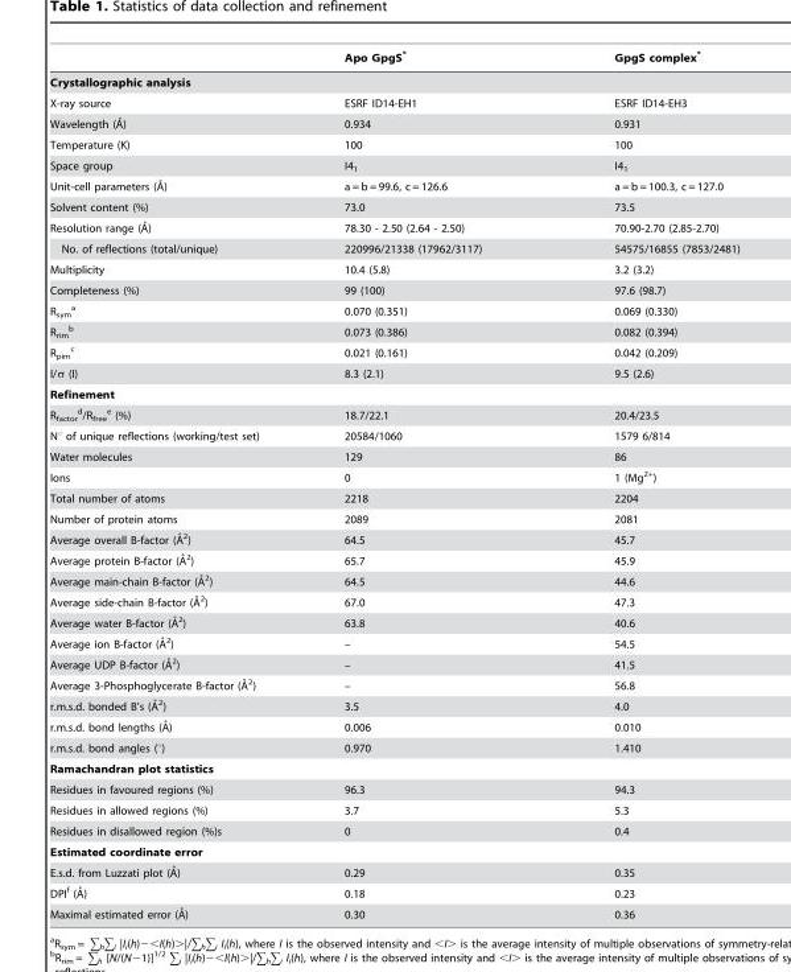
<table><thead><tr><td></td><td>Apo GpgS*</td><td>GpgS complex*</td></tr></thead><tbody><tr><td colspan="3">Crystallographic analysis</td></tr><tr><td>X-ray source</td><td>ESRF ID14-EH1</td><td>ESRF ID14-EH3</td></tr><tr><td>Wavelength (A˚)</td><td>0.934</td><td>0.931</td></tr><tr><td>Temperature (K)</td><td>100</td><td>100</td></tr><tr><td>Space group</td><td>I4<sub>1</sub></td><td>I4<sub>1</sub></td></tr><tr><td>Unit-cell parameters (A˚)</td><td>a = b = 99.6, c = 126.6</td><td>a = b = 100.3, c = 127.0</td></tr><tr><td>Solvent content (%)</td><td>73.0</td><td>73.5</td></tr><tr><td>Resolution range (A˚)</td><td>78.30 - 2.50 (2.64 - 2.50)</td><td>70.90-2.70 (2.85-2.70)</td></tr><tr><td>No. of reflections (total/unique)</td><td>220996/21338 (17962/3117)</td><td>54575/16855 (7853/2481)</td></tr><tr><td>Multiplicity</td><td>10.4 (5.8)</td><td>3.2 (3.2)</td></tr><tr><td>Completeness (%)</td><td>99 (100)</td><td>97.6 (98.7)</td></tr><tr><td>R<sub>sym</sub> a</td><td>0.070 (0.351)</td><td>0.069 (0.330)</td></tr><tr><td>R<sub>rim</sub> b</td><td>0.073 (0.386)</td><td>0.082 (0.394)</td></tr><tr><td>R<sub>pim</sub> c</td><td>0.021 (0.161)</td><td>0.042 (0.209)</td></tr><tr><td>I/σ (I)</td><td>8.3 (2.1)</td><td>9.5 (2.6)</td></tr><tr><td colspan="3">Refinement</td></tr><tr><td>R<sub>factor</sub> d/R<sub>free</sub> e (%)</td><td>18.7/22.1</td><td>20.4/23.5</td></tr><tr><td>N° of unique reflections (working/test set)</td><td>20584/1060</td><td>1579 6/814</td></tr><tr><td>Water molecules</td><td>129</td><td>86</td></tr><tr><td>Ions</td><td>0</td><td>1 (Mg<sup>2+</sup>)</td></tr><tr><td>Total number of atoms</td><td>2218</td><td>2204</td></tr><tr><td>Number of protein atoms</td><td>2089</td><td>2081</td></tr><tr><td>Average overall B-factor (A˚2)</td><td>64.5</td><td>45.7</td></tr><tr><td>Average protein B-factor (A˚2)</td><td>65.7</td><td>45.9</td></tr><tr><td>Average main-chain B-factor (A˚ 2)</td><td>64.5</td><td>44.6</td></tr><tr><td>Average side-chain B-factor (A˚ 2)</td><td>67.0</td><td>47.3</td></tr><tr><td>Average water B-factor (A˚ 2)</td><td>63.8</td><td>40.6</td></tr><tr><td>Average ion B-factor (A˚2)</td><td>–</td><td>54.5</td></tr><tr><td>Average UDP B-factor (A˚2)</td><td>–</td><td>41.5</td></tr><tr><td>Average 3-Phosphoglycerate B-factor (A˚ 2)</td><td>–</td><td>56.8</td></tr><tr><td>r.m.s.d. bonded B’s (A˚2)</td><td>3.5</td><td>4.0</td></tr><tr><td>r.m.s.d. bond lengths (A˚)</td><td>0.006</td><td>0.010</td></tr><tr><td>r.m.s.d. bond angles (°)</td><td>0.970</td><td>1.410</td></tr><tr><td colspan="3">Ramachandran plot statistics</td></tr><tr><td>Residues in favoured regions (%)</td><td>96.3</td><td>94.3</td></tr><tr><td>Residues in allowed regions (%)</td><td>3.7</td><td>5.3</td></tr><tr><td>Residues in disallowed region (%)s</td><td>0</td><td>0.4</td></tr><tr><td colspan="3">Estimated coordinate error</td></tr><tr><td>E.s.d. from Luzzati plot (A˚)</td><td>0.29</td><td>0.35</td></tr><tr><td>DPIf (A˚)</td><td>0.18</td><td>0.23</td></tr><tr><td>Maximal estimated error (A˚)</td><td>0.30</td><td>0.36</td></tr></tbody></table>